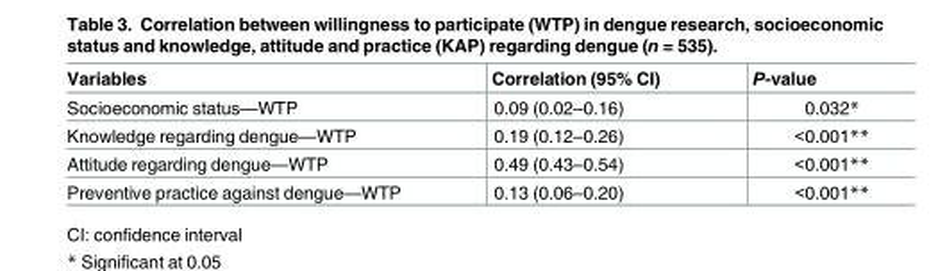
<table><thead><tr><td>Variables</td><td>Correlation (95% CI)</td><td>P-value</td></tr></thead><tbody><tr><td>Socioeconomic status—WTP</td><td>0.09 (0.02–0.16)</td><td>0.032*</td></tr><tr><td>Knowledge regarding dengue—WTP</td><td>0.19 (0.12–0.26)</td><td>&lt;0.001**</td></tr><tr><td>Attitude regarding dengue—WTP</td><td>0.49 (0.43–0.54)</td><td>&lt;0.001**</td></tr><tr><td>Preventive practice against dengue—WTP</td><td>0.13 (0.06–0.20)</td><td>&lt;0.001**</td></tr></tbody></table>